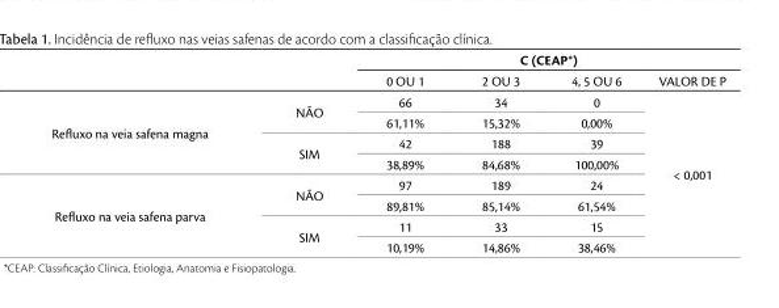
<table><thead><tr><td rowspan="2"></td><td colspan="5">C (CEAP*)</td></tr><tr><td></td><td>0 OU 1</td><td>2 OU 3</td><td>4, 5 OU 6</td><td>VALOR DE P</td></tr></thead><tbody><tr><td rowspan="4">Refluxo na veia safena magna</td><td rowspan="2">NÃO</td><td>66</td><td>34</td><td>0</td><td rowspan="8">&lt; 0,001</td></tr><tr><td>61,11%</td><td>15,32%</td><td>0,00%</td></tr><tr><td rowspan="2">SIM</td><td>42</td><td>188</td><td>39</td></tr><tr><td>38,89%</td><td>84,68%</td><td>100,00%</td></tr><tr><td rowspan="4">Refluxo na veia safena parva</td><td rowspan="2">NÃO</td><td>97</td><td>189</td><td>24</td></tr><tr><td>89,81%</td><td>85,14%</td><td>61,54%</td></tr><tr><td rowspan="2">SIM</td><td>11</td><td>33</td><td>15</td></tr><tr><td>10,19%</td><td>14,86%</td><td>38,46%</td></tr></tbody></table>